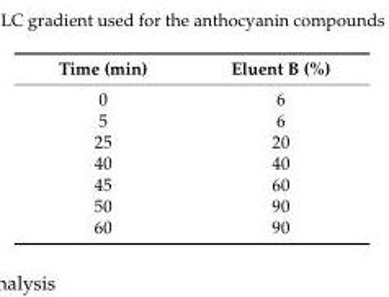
<table><thead><tr><td>Time (min)</td><td>Eluent B (%)</td></tr></thead><tbody><tr><td>0</td><td>6</td></tr><tr><td>5</td><td>6</td></tr><tr><td>25</td><td>20</td></tr><tr><td>40</td><td>40</td></tr><tr><td>45</td><td>60</td></tr><tr><td>50</td><td>90</td></tr><tr><td>60</td><td>90</td></tr></tbody></table>